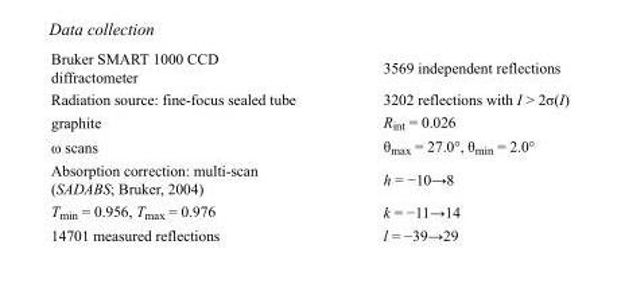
<table><tbody><tr><td>Bruker SMART 1000 CCD diffractometer</td><td>3569 independent reflections</td></tr><tr><td>Radiation source: fine-focus sealed tube</td><td>3202 reflections with I &gt; 2σ(I)</td></tr><tr><td>graphite</td><td>R<sub>int</sub> = 0.026</td></tr><tr><td>ω scans</td><td>θ<sub>max</sub> = 27.0°, θ<sub>min</sub> = 2.0°</td></tr><tr><td>Absorption correction: multi-scan (SADABS; Bruker, 2004)</td><td>h = −10→8</td></tr><tr><td>T<sub>min</sub> = 0.956, T<sub>max</sub> = 0.976</td><td>k = −11→14</td></tr><tr><td>14701 measured reflections</td><td>l = −39→29</td></tr></tbody></table>